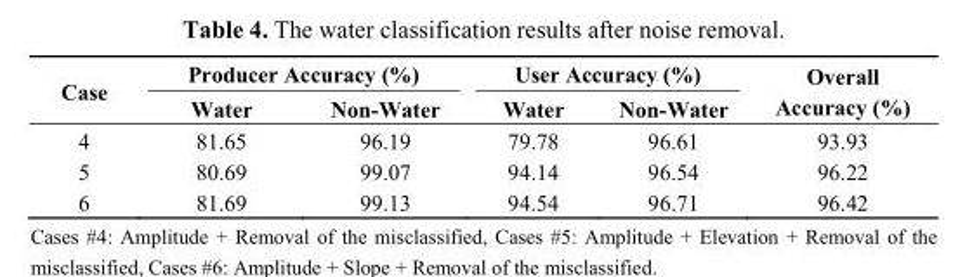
<table><thead><tr><td rowspan="2">Case</td><td colspan="2">Producer Accuracy (%)</td><td colspan="2">User Accuracy (%)</td><td rowspan="2">Overall Accuracy (%)</td></tr><tr><td>Water</td><td>Non-Water</td><td>Water</td><td>Non-Water</td></tr></thead><tbody><tr><td>4</td><td>81.65</td><td>96.19</td><td>79.78</td><td>96.61</td><td>93.93</td></tr><tr><td>5</td><td>80.69</td><td>99.07</td><td>94.14</td><td>96.54</td><td>96.22</td></tr><tr><td>6</td><td>81.69</td><td>99.13</td><td>94.54</td><td>96.71</td><td>96.42</td></tr></tbody></table>